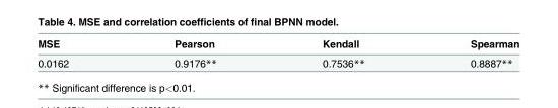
<table><thead><tr><td>MSE</td><td>Pearson</td><td>Kendall</td><td>Spearman</td></tr></thead><tbody><tr><td>0.0162</td><td>0.9176**</td><td>0.7536**</td><td>0.8887**</td></tr></tbody></table>